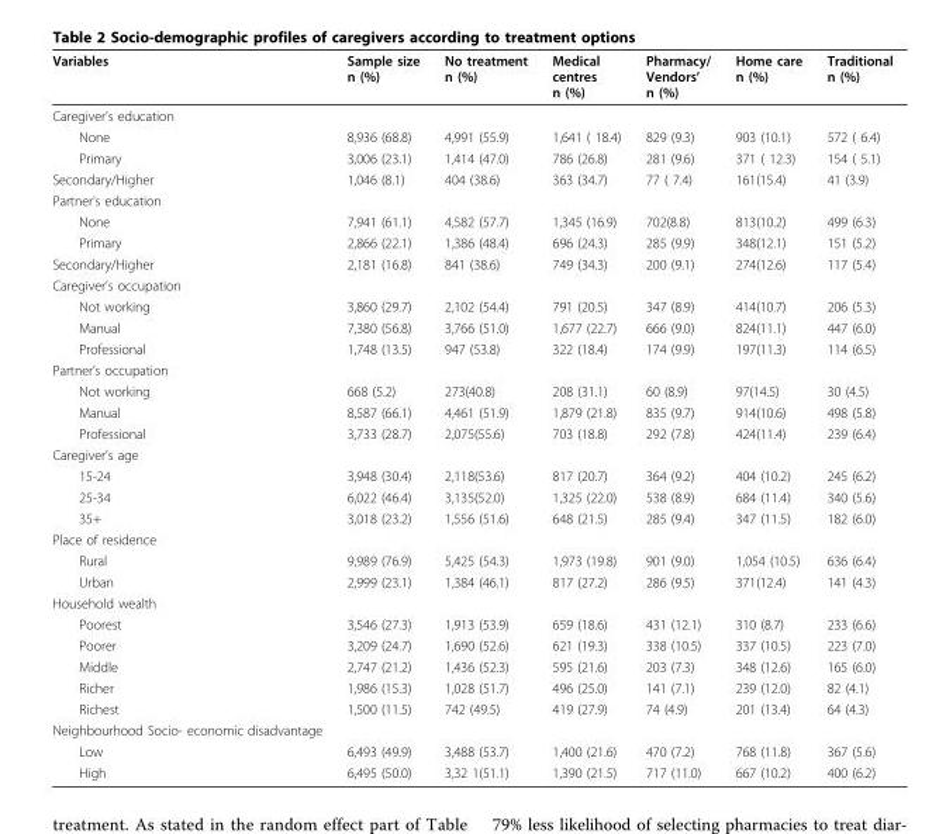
<table><thead><tr><td>Variables</td><td>Sample size n (%)</td><td>No treatment n (%)</td><td>Medical centres n (%)</td><td>Pharmacy/ Vendors’ n (%)</td><td>Home care n (%)</td><td>Traditional n (%)</td></tr></thead><tbody><tr><td colspan="7">Caregiver’s education</td></tr><tr><td>None</td><td>8,936 (68.8)</td><td>4,991 (55.9)</td><td>1,641 ( 18.4)</td><td>829 (9.3)</td><td>903 (10.1)</td><td>572 ( 6.4)</td></tr><tr><td>Primary</td><td>3,006 (23.1)</td><td>1,414 (47.0)</td><td>786 (26.8)</td><td>281 (9.6)</td><td>371 ( 12.3)</td><td>154 ( 5.1)</td></tr><tr><td>Secondary/Higher</td><td>1,046 (8.1)</td><td>404 (38.6)</td><td>363 (34.7)</td><td>77 ( 7.4)</td><td>161(15.4)</td><td>41 (3.9)</td></tr><tr><td colspan="7">Partner’s education</td></tr><tr><td>None</td><td>7,941 (61.1)</td><td>4,582 (57.7)</td><td>1,345 (16.9)</td><td>702(8.8)</td><td>813(10.2)</td><td>499 (6.3)</td></tr><tr><td>Primary</td><td>2,866 (22.1)</td><td>1,386 (48.4)</td><td>696 (24.3)</td><td>285 (9.9)</td><td>348(12.1)</td><td>151 (5.2)</td></tr><tr><td>Secondary/Higher</td><td>2,181 (16.8)</td><td>841 (38.6)</td><td>749 (34.3)</td><td>200 (9.1)</td><td>274(12.6)</td><td>117 (5.4)</td></tr><tr><td colspan="7">Caregiver’s occupation</td></tr><tr><td>Not working</td><td>3,860 (29.7)</td><td>2,102 (54.4)</td><td>791 (20.5)</td><td>347 (8.9)</td><td>414(10.7)</td><td>206 (5.3)</td></tr><tr><td>Manual</td><td>7,380 (56.8)</td><td>3,766 (51.0)</td><td>1,677 (22.7)</td><td>666 (9.0)</td><td>824(11.1)</td><td>447 (6.0)</td></tr><tr><td>Professional</td><td>1,748 (13.5)</td><td>947 (53.8)</td><td>322 (18.4)</td><td>174 (9.9)</td><td>197(11.3)</td><td>114 (6.5)</td></tr><tr><td colspan="7">Partner’s occupation</td></tr><tr><td>Not working</td><td>668 (5.2)</td><td>273(40.8)</td><td>208 (31.1)</td><td>60 (8.9)</td><td>97(14.5)</td><td>30 (4.5)</td></tr><tr><td>Manual</td><td>8,587 (66.1)</td><td>4,461 (51.9)</td><td>1,879 (21.8)</td><td>835 (9.7)</td><td>914(10.6)</td><td>498 (5.8)</td></tr><tr><td>Professional</td><td>3,733 (28.7)</td><td>2,075(55.6)</td><td>703 (18.8)</td><td>292 (7.8)</td><td>424(11.4)</td><td>239 (6.4)</td></tr><tr><td colspan="7">Caregiver’s age</td></tr><tr><td>15-24</td><td>3,948 (30.4)</td><td>2,118(53.6)</td><td>817 (20.7)</td><td>364 (9.2)</td><td>404 (10.2)</td><td>245 (6.2)</td></tr><tr><td>25-34</td><td>6,022 (46.4)</td><td>3,135(52.0)</td><td>1,325 (22.0)</td><td>538 (8.9)</td><td>684 (11.4)</td><td>340 (5.6)</td></tr><tr><td>35+</td><td>3,018 (23.2)</td><td>1,556 (51.6)</td><td>648 (21.5)</td><td>285 (9.4)</td><td>347 (11.5)</td><td>182 (6.0)</td></tr><tr><td colspan="7">Place of residence</td></tr><tr><td>Rural</td><td>9,989 (76.9)</td><td>5,425 (54.3)</td><td>1,973 (19.8)</td><td>901 (9.0)</td><td>1,054 (10.5)</td><td>636 (6.4)</td></tr><tr><td>Urban</td><td>2,999 (23.1)</td><td>1,384 (46.1)</td><td>817 (27.2)</td><td>286 (9.5)</td><td>371(12.4)</td><td>141 (4.3)</td></tr><tr><td colspan="7">Household wealth</td></tr><tr><td>Poorest</td><td>3,546 (27.3)</td><td>1,913 (53.9)</td><td>659 (18.6)</td><td>431 (12.1)</td><td>310 (8.7)</td><td>233 (6.6)</td></tr><tr><td>Poorer</td><td>3,209 (24.7)</td><td>1,690 (52.6)</td><td>621 (19.3)</td><td>338 (10.5)</td><td>337 (10.5)</td><td>223 (7.0)</td></tr><tr><td>Middle</td><td>2,747 (21.2)</td><td>1,436 (52.3)</td><td>595 (21.6)</td><td>203 (7.3)</td><td>348 (12.6)</td><td>165 (6.0)</td></tr><tr><td>Richer</td><td>1,986 (15.3)</td><td>1,028 (51.7)</td><td>496 (25.0)</td><td>141 (7.1)</td><td>239 (12.0)</td><td>82 (4.1)</td></tr><tr><td>Richest</td><td>1,500 (11.5)</td><td>742 (49.5)</td><td>419 (27.9)</td><td>74 (4.9)</td><td>201 (13.4)</td><td>64 (4.3)</td></tr><tr><td colspan="7">Neighbourhood Socio- economic disadvantage</td></tr><tr><td>Low</td><td>6,493 (49.9)</td><td>3,488 (53.7)</td><td>1,400 (21.6)</td><td>470 (7.2)</td><td>768 (11.8)</td><td>367 (5.6)</td></tr><tr><td>High</td><td>6,495 (50.0)</td><td>3,32 1(51.1)</td><td>1,390 (21.5)</td><td>717 (11.0)</td><td>667 (10.2)</td><td>400 (6.2)</td></tr></tbody></table>